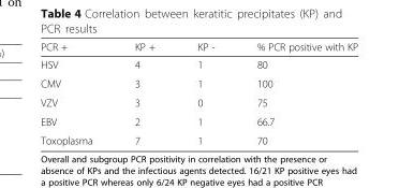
<table><thead><tr><td>PCR +</td><td>KP +</td><td>KP -</td><td>% PCR positive with KP</td></tr></thead><tbody><tr><td>HSV</td><td>4</td><td>1</td><td>80</td></tr><tr><td>CMV</td><td>3</td><td>1</td><td>100</td></tr><tr><td>VZV</td><td>3</td><td>0</td><td>75</td></tr><tr><td>EBV</td><td>2</td><td>1</td><td>66.7</td></tr><tr><td>Toxoplasma</td><td>7</td><td>1</td><td>70</td></tr></tbody></table>